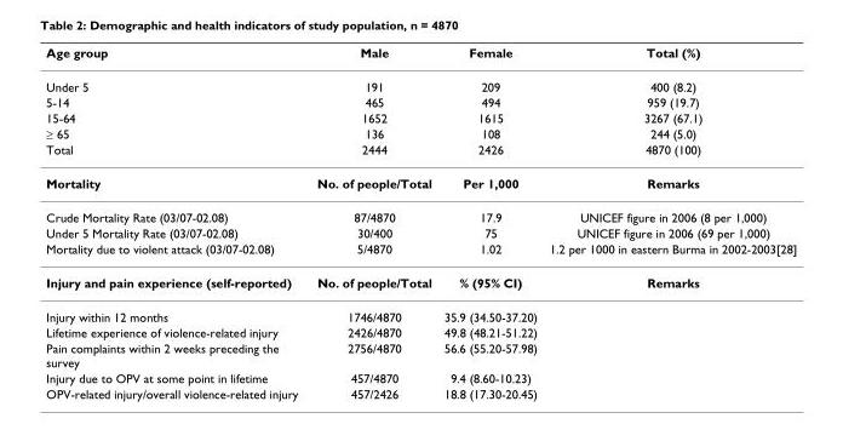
<table><thead><tr><td>Age group</td><td>Male</td><td>Female</td><td>Total (%)</td></tr></thead><tbody><tr><td>Under 5</td><td>191</td><td>209</td><td>400 (8.2)</td></tr><tr><td>5-14</td><td>465</td><td>494</td><td>959 (19.7)</td></tr><tr><td>15-64</td><td>1652</td><td>1615</td><td>3267 (67.1)</td></tr><tr><td>≥ 65</td><td>136</td><td>108</td><td>244 (5.0)</td></tr><tr><td>Total</td><td>2444</td><td>2426</td><td>4870 (100)</td></tr><tr><td>Mortality</td><td>No. of people/Total</td><td>Per 1,000</td><td>Remarks</td></tr><tr><td>Crude Mortality Rate (03/07-02.08)</td><td>87/4870</td><td>17.9</td><td>UNICEF figure in 2006 (8 per 1,000)</td></tr><tr><td>Under 5 Mortality Rate (03/07-02.08)</td><td>30/400</td><td>75</td><td>UNICEF figure in 2006 (69 per 1,000)</td></tr><tr><td>Mortality due to violent attack (03/07-02.08)</td><td>5/4870</td><td>1.02</td><td>1.2 per 1000 in eastern Burma in 2002-2003[28]</td></tr><tr><td>Injury and pain experience (self-reported)</td><td>No. of people/Total</td><td>% (95% CI)</td><td>Remarks</td></tr><tr><td>Injury within 12 months</td><td>1746/4870</td><td>35.9 (34.50-37.20)</td><td></td></tr><tr><td>Lifetime experience of violence-related injury</td><td>2426/4870</td><td>49.8 (48.21-51.22)</td><td></td></tr><tr><td>Pain complaints within 2 weeks preceding the survey</td><td>2756/4870</td><td>56.6 (55.20-57.98)</td><td></td></tr><tr><td>Injury due to OPV at some point in lifetime</td><td>457/4870</td><td>9.4 (8.60-10.23)</td><td></td></tr><tr><td>OPV-related injury/overall violence-related injury</td><td>457/2426</td><td>18.8 (17.30-20.45)</td><td></td></tr></tbody></table>